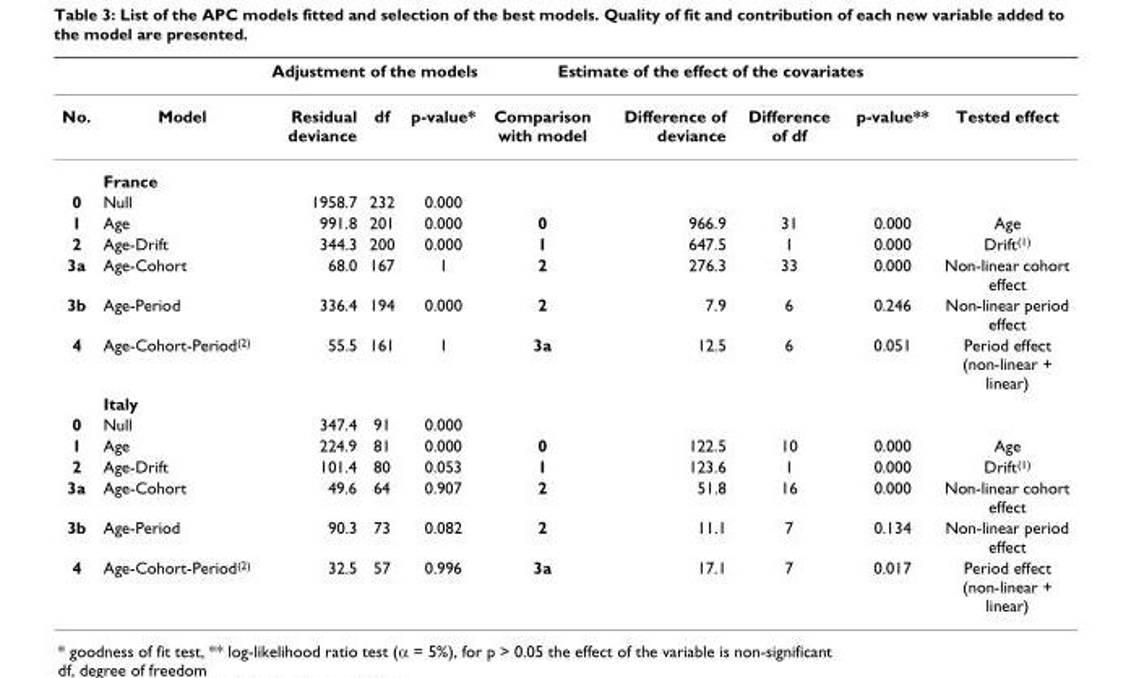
<table><thead><tr><td rowspan="2">No.</td><td rowspan="2">Model</td><td colspan="3">Adjustment of the models</td><td colspan="4">Estimate of the effect of the covariates</td><td rowspan="2">Tested effect</td></tr><tr><td>Residual deviance</td><td>df</td><td>p-value*</td><td>Comparison with model</td><td>Difference of deviance</td><td>Difference of df</td><td>p-value**</td></tr></thead><tbody><tr><td></td><td>France</td><td></td><td></td><td></td><td></td><td></td><td></td><td></td><td></td></tr><tr><td>0</td><td>Null</td><td>1958.7</td><td>232</td><td>0.000</td><td></td><td></td><td></td><td></td><td></td></tr><tr><td>1</td><td>Age</td><td>991.8</td><td>201</td><td>0.000</td><td>0</td><td>966.9</td><td>31</td><td>0.000</td><td>Age</td></tr><tr><td>2</td><td>Age-Drift</td><td>344.3</td><td>200</td><td>0.000</td><td>1</td><td>647.5</td><td>1</td><td>0.000</td><td>Drift<sup>(1)</sup></td></tr><tr><td>3a</td><td>Age-Cohort</td><td>68.0</td><td>167</td><td>1</td><td>2</td><td>276.3</td><td>33</td><td>0.000</td><td>Non-linear cohort effect</td></tr><tr><td>3b</td><td>Age-Period</td><td>336.4</td><td>194</td><td>0.000</td><td>2</td><td>7.9</td><td>6</td><td>0.246</td><td>Non-linear period effect</td></tr><tr><td rowspan="2">4</td><td>Age-Cohort-Period<sup>(2)</sup></td><td>55.5</td><td>161</td><td>1</td><td>3a</td><td>12.5</td><td>6</td><td>0.051</td><td>Period effect (non-linear + linear)</td></tr><tr><td>Italy</td><td></td><td></td><td></td><td></td><td></td><td></td><td></td><td></td></tr><tr><td>0</td><td>Null</td><td>347.4</td><td>91</td><td>0.000</td><td></td><td></td><td></td><td></td><td></td></tr><tr><td>1</td><td>Age</td><td>224.9</td><td>81</td><td>0.000</td><td>0</td><td>122.5</td><td>10</td><td>0.000</td><td>Age</td></tr><tr><td>2</td><td>Age-Drift</td><td>101.4</td><td>80</td><td>0.053</td><td>1</td><td>123.6</td><td>1</td><td>0.000</td><td>Drift<sup>(1)</sup></td></tr><tr><td>3a</td><td>Age-Cohort</td><td>49.6</td><td>64</td><td>0.907</td><td>2</td><td>51.8</td><td>16</td><td>0.000</td><td>Non-linear cohort effect</td></tr><tr><td>3b</td><td>Age-Period</td><td>90.3</td><td>73</td><td>0.082</td><td>2</td><td>11.1</td><td>7</td><td>0.134</td><td>Non-linear period effect</td></tr><tr><td>4</td><td>Age-Cohort-Period<sup>(2)</sup></td><td>32.5</td><td>57</td><td>0.996</td><td>3a</td><td>17.1</td><td>7</td><td>0.017</td><td>Period effect (non-linear + linear)</td></tr></tbody></table>